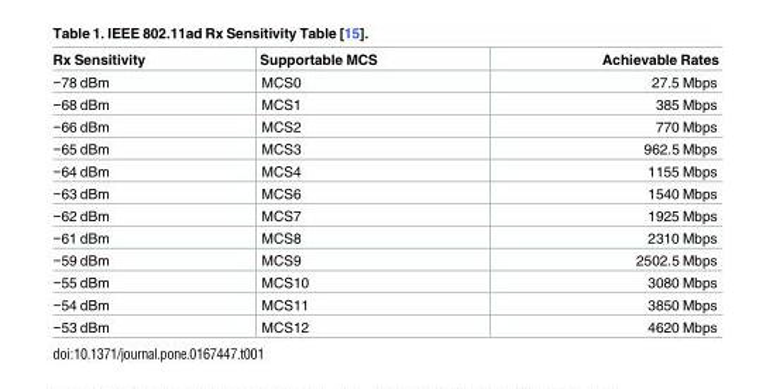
<table><thead><tr><td>Rx Sensitivity</td><td>Supportable MCS</td><td>Achievable Rates</td></tr></thead><tbody><tr><td>−78 dBm</td><td>MCS0</td><td>27.5 Mbps</td></tr><tr><td>−68 dBm</td><td>MCS1</td><td>385 Mbps</td></tr><tr><td>−66 dBm</td><td>MCS2</td><td>770 Mbps</td></tr><tr><td>−65 dBm</td><td>MCS3</td><td>962.5 Mbps</td></tr><tr><td>−64 dBm</td><td>MCS4</td><td>1155 Mbps</td></tr><tr><td>−63 dBm</td><td>MCS6</td><td>1540 Mbps</td></tr><tr><td>−62 dBm</td><td>MCS7</td><td>1925 Mbps</td></tr><tr><td>−61 dBm</td><td>MCS8</td><td>2310 Mbps</td></tr><tr><td>−59 dBm</td><td>MCS9</td><td>2502.5 Mbps</td></tr><tr><td>−55 dBm</td><td>MCS10</td><td>3080 Mbps</td></tr><tr><td>−54 dBm</td><td>MCS11</td><td>3850 Mbps</td></tr><tr><td>−53 dBm</td><td>MCS12</td><td>4620 Mbps</td></tr></tbody></table>